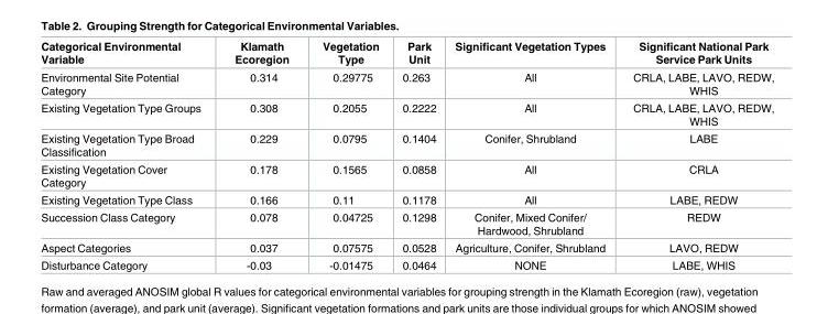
<table><thead><tr><td>Categorical Environmental Variable</td><td>Klamath Ecoregion</td><td>Vegetation Type</td><td>Park Unit</td><td>Significant Vegetation Types</td><td>Significant National Park Service Park Units</td></tr></thead><tbody><tr><td>Environmental Site Potential Category</td><td>0.314</td><td>0.29775</td><td>0.263</td><td>All</td><td>CRLA, LABE, LAVO, REDW, WHIS</td></tr><tr><td>Existing Vegetation Type Groups</td><td>0.308</td><td>0.2055</td><td>0.2222</td><td>All</td><td>CRLA, LABE, LAVO, REDW, WHIS</td></tr><tr><td>Existing Vegetation Type Broad Classification</td><td>0.229</td><td>0.0795</td><td>0.1404</td><td>Conifer, Shrubland</td><td>LABE</td></tr><tr><td>Existing Vegetation Cover Category</td><td>0.178</td><td>0.1565</td><td>0.0858</td><td>All</td><td>CRLA</td></tr><tr><td>Existing Vegetation Type Class</td><td>0.166</td><td>0.11</td><td>0.1178</td><td>All</td><td>LABE, REDW</td></tr><tr><td>Succession Class Category</td><td>0.078</td><td>0.04725</td><td>0.1298</td><td>Conifer, Mixed Conifer/ Hardwood, Shrubland</td><td>REDW</td></tr><tr><td>Aspect Categories</td><td>0.037</td><td>0.07575</td><td>0.0528</td><td>Agriculture, Conifer, Shrubland</td><td>LAVO, REDW</td></tr><tr><td>Disturbance Category</td><td>-0.03</td><td>-0.01475</td><td>0.0464</td><td>NONE</td><td>LABE, WHIS</td></tr></tbody></table>